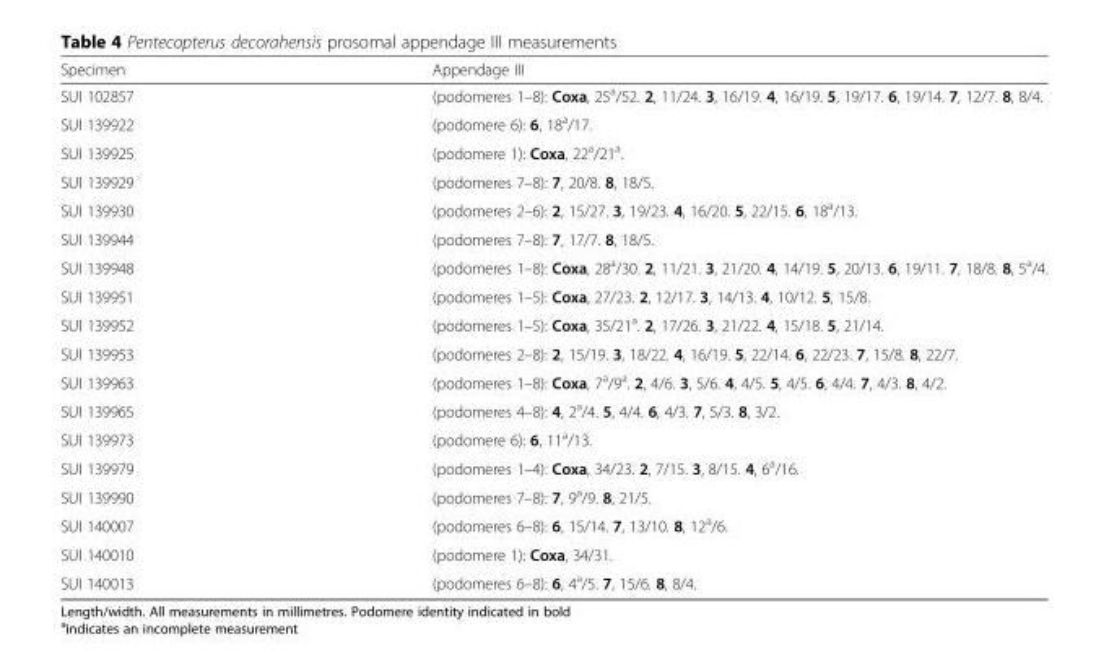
<table><thead><tr><td>Specimen</td><td>Appendage III</td></tr></thead><tbody><tr><td>SUI 102857</td><td>(podomeres 1–8): Coxa, 25<sup>a</sup>/52. 2, 11/24. 3, 16/19. 4, 16/19. 5, 19/17. 6, 19/14. 7, 12/7. 8, 8/4.</td></tr><tr><td>SUI 139922</td><td>(podomere 6): 6, 18<sup>a</sup>/17.</td></tr><tr><td>SUI 139925</td><td>(podomere 1): Coxa, 22<sup>a</sup>/21<sup>a</sup>.</td></tr><tr><td>SUI 139929</td><td>(podomeres 7–8): 7, 20/8. 8, 18/5.</td></tr><tr><td>SUI 139930</td><td>(podomeres 2–6): 2, 15/27. 3, 19/23. 4, 16/20. 5, 22/15. 6, 18<sup>a</sup>/13.</td></tr><tr><td>SUI 139944</td><td>(podomeres 7–8): 7, 17/7. 8, 18/5.</td></tr><tr><td>SUI 139948</td><td>(podomeres 1–8): Coxa, 28<sup>a</sup>/30. 2, 11/21. 3, 21/20. 4, 14/19. 5, 20/13. 6, 19/11. 7, 18/8. 8, 5<sup>a</sup>/4.</td></tr><tr><td>SUI 139951</td><td>(podomeres 1–5): Coxa, 27/23. 2, 12/17. 3, 14/13. 4, 10/12. 5, 15/8.</td></tr><tr><td>SUI 139952</td><td>(podomeres 1–5): Coxa, 35/21<sup>a</sup>. 2, 17/26. 3, 21/22. 4, 15/18. 5, 21/14.</td></tr><tr><td>SUI 139953</td><td>(podomeres 2–8): 2, 15/19. 3, 18/22. 4, 16/19. 5, 22/14. 6, 22/23. 7, 15/8. 8, 22/7.</td></tr><tr><td>SUI 139963</td><td>(podomeres 1–8): Coxa, 7<sup>a</sup>/9<sup>a</sup>. 2, 4/6. 3, 5/6. 4, 4/5. 5, 4/5. 6, 4/4. 7, 4/3. 8, 4/2.</td></tr><tr><td>SUI 139965</td><td>(podomeres 4–8): 4, 2<sup>a</sup>/4. 5, 4/4. 6, 4/3. 7, 5/3. 8, 3/2.</td></tr><tr><td>SUI 139973</td><td>(podomere 6): 6, 11<sup>a</sup>/13.</td></tr><tr><td>SUI 139979</td><td>(podomeres 1–4): Coxa, 34/23. 2, 7/15. 3, 8/15. 4, 6<sup>a</sup>/16.</td></tr><tr><td>SUI 139990</td><td>(podomeres 7–8): 7, 9<sup>a</sup>/9. 8, 21/5.</td></tr><tr><td>SUI 140007</td><td>(podomeres 6–8): 6, 15/14. 7, 13/10. 8, 12<sup>a</sup>/6.</td></tr><tr><td>SUI 140010</td><td>(podomere 1): Coxa, 34/31.</td></tr><tr><td>SUI 140013</td><td>(podomeres 6–8): 6, 4<sup>a</sup>/5. 7, 15/6. 8, 8/4.</td></tr></tbody></table>